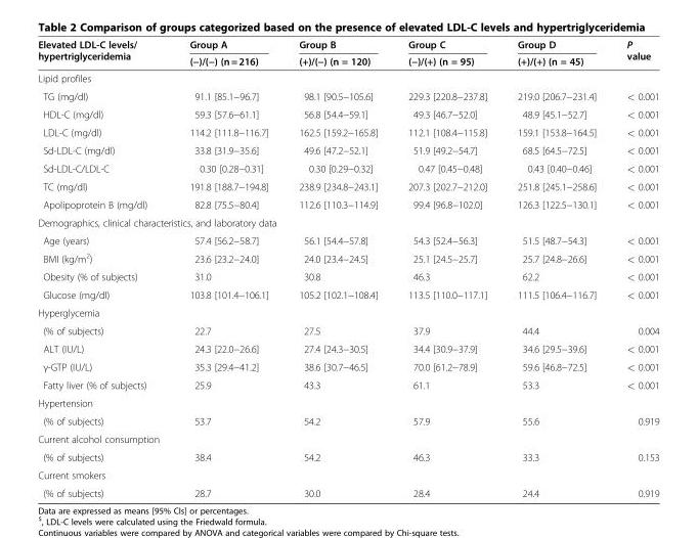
<table><thead><tr><td rowspan="2">Elevated LDL-C levels/ hypertriglyceridemia</td><td rowspan="2">Group A (−)/(−) (n = 216)</td><td rowspan="2">Group B (+)/(−) (n = 120)</td><td rowspan="2">Group C (−)/(+) (n = 95)</td><td rowspan="2">Group D (+)/(+) (n = 45)</td><td rowspan="2">P value</td></tr><tr></tr></thead><tbody><tr><td colspan="6">Lipid profiles</td></tr><tr><td>TG (mg/dl)</td><td>91.1 [85.1−96.7]</td><td>98.1 [90.5−105.6]</td><td>229.3 [220.8−237.8]</td><td>219.0 [206.7−231.4]</td><td>&lt; 0.001</td></tr><tr><td>HDL-C (mg/dl)</td><td>59.3 [57.6−61.1]</td><td>56.8 [54.4−59.1]</td><td>49.3 [46.7−52.0]</td><td>48.9 [45.1−52.7]</td><td>&lt; 0.001</td></tr><tr><td>LDL-C (mg/dl)</td><td>114.2 [111.8−116.7]</td><td>162.5 [159.2−165.8]</td><td>112.1 [108.4−115.8]</td><td>159.1 [153.8−164.5]</td><td>&lt; 0.001</td></tr><tr><td>Sd-LDL-C (mg/dl)</td><td>33.8 [31.9−35.6]</td><td>49.6 [47.2−52.1]</td><td>51.9 [49.2−54.7]</td><td>68.5 [64.5−72.5]</td><td>&lt; 0.001</td></tr><tr><td>Sd-LDL-C/LDL-C</td><td>0.30 [0.28−0.31]</td><td>0.30 [0.29−0.32]</td><td>0.47 [0.45−0.48]</td><td>0.43 [0.40−0.46]</td><td>&lt; 0.001</td></tr><tr><td>TC (mg/dl)</td><td>191.8 [188.7−194.8]</td><td>238.9 [234.8−243.1]</td><td>207.3 [202.7−212.0]</td><td>251.8 [245.1−258.6]</td><td>&lt; 0.001</td></tr><tr><td>Apolipoprotein B (mg/dl)</td><td>82.8 [75.5−80.4]</td><td>112.6 [110.3−114.9]</td><td>99.4 [96.8−102.0]</td><td>126.3 [122.5−130.1]</td><td>&lt; 0.001</td></tr><tr><td colspan="6">Demographics, clinical characteristics, and laboratory data</td></tr><tr><td>Age (years)</td><td>57.4 [56.2−58.7]</td><td>56.1 [54.4−57.8]</td><td>54.3 [52.4−56.3]</td><td>51.5 [48.7−54.3]</td><td>&lt; 0.001</td></tr><tr><td>BMI (kg/m<sup>2</sup>)</td><td>23.6 [23.2−24.0]</td><td>24.0 [23.4−24.5]</td><td>25.1 [24.5−25.7]</td><td>25.7 [24.8−26.6]</td><td>&lt; 0.001</td></tr><tr><td>Obesity (% of subjects)</td><td>31.0</td><td>30.8</td><td>46.3</td><td>62.2</td><td>&lt; 0.001</td></tr><tr><td>Glucose (mg/dl)</td><td>103.8 [101.4−106.1]</td><td>105.2 [102.1−108.4]</td><td>113.5 [110.0−117.1]</td><td>111.5 [106.4−116.7]</td><td>&lt; 0.001</td></tr><tr><td colspan="6">Hyperglycemia</td></tr><tr><td>(% of subjects)</td><td>22.7</td><td>27.5</td><td>37.9</td><td>44.4</td><td>0.004</td></tr><tr><td>ALT (IU/L)</td><td>24.3 [22.0−26.6]</td><td>27.4 [24.3−30.5]</td><td>34.4 [30.9−37.9]</td><td>34.6 [29.5−39.6]</td><td>&lt; 0.001</td></tr><tr><td>γ-GTP (IU/L)</td><td>35.3 [29.4−41.2]</td><td>38.6 [30.7−46.5]</td><td>70.0 [61.2−78.9]</td><td>59.6 [46.8−72.5]</td><td>&lt; 0.001</td></tr><tr><td>Fatty liver (% of subjects)</td><td>25.9</td><td>43.3</td><td>61.1</td><td>53.3</td><td>&lt; 0.001</td></tr><tr><td colspan="6">Hypertension</td></tr><tr><td>(% of subjects)</td><td>53.7</td><td>54.2</td><td>57.9</td><td>55.6</td><td>0.919</td></tr><tr><td colspan="6">Current alcohol consumption</td></tr><tr><td>(% of subjects)</td><td>38.4</td><td>54.2</td><td>46.3</td><td>33.3</td><td>0.153</td></tr><tr><td colspan="6">Current smokers</td></tr><tr><td>(% of subjects)</td><td>28.7</td><td>30.0</td><td>28.4</td><td>24.4</td><td>0.919</td></tr></tbody></table>